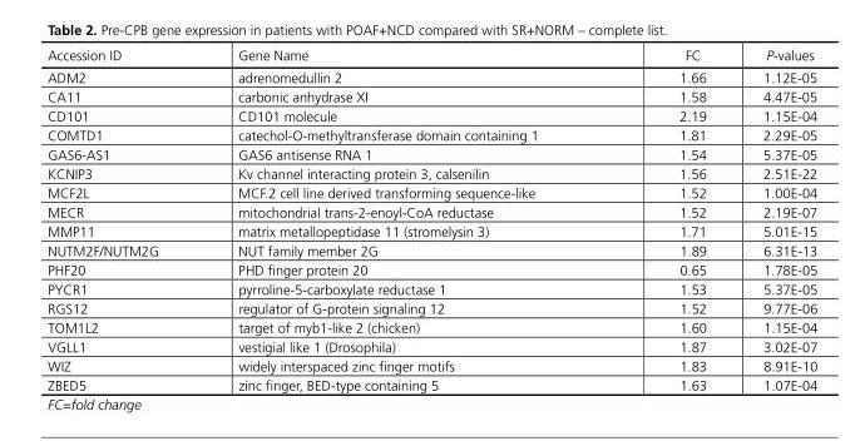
<table><thead><tr><td>Accession ID</td><td>Gene Name</td><td>FC</td><td>P-values</td></tr></thead><tbody><tr><td>ADM2</td><td>adrenomedullin 2</td><td>1.66</td><td>1.12E-05</td></tr><tr><td>CA11</td><td>carbonic anhydrase XI</td><td>1.58</td><td>4.47E-05</td></tr><tr><td>CD101</td><td>CD101 molecule</td><td>2.19</td><td>1.15E-04</td></tr><tr><td>COMTD1</td><td>catechol-O-methyltransferase domain containing 1</td><td>1.81</td><td>2.29E-05</td></tr><tr><td>GAS6-AS1</td><td>GAS6 antisense RNA 1</td><td>1.54</td><td>5.37E-05</td></tr><tr><td>KCNIP3</td><td>Kv channel interacting protein 3, calsenilin</td><td>1.56</td><td>2.51E-22</td></tr><tr><td>MCF2L</td><td>MCF.2 cell line derived transforming sequence-like</td><td>1.52</td><td>1.00E-04</td></tr><tr><td>MECR</td><td>mitochondrial trans-2-enoyl-CoA reductase</td><td>1.52</td><td>2.19E-07</td></tr><tr><td>MMP11</td><td>matrix metallopeptidase 11 (stromelysin 3)</td><td>1.71</td><td>5.01E-15</td></tr><tr><td>NUTM2F/NUTM2G</td><td>NUT family member 2G</td><td>1.89</td><td>6.31E-13</td></tr><tr><td>PHF20</td><td>PHD finger protein 20</td><td>0.65</td><td>1.78E-05</td></tr><tr><td>PYCR1</td><td>pyrroline-5-carboxylate reductase 1</td><td>1.53</td><td>5.37E-05</td></tr><tr><td>RGS12</td><td>regulator of G-protein signaling 12</td><td>1.52</td><td>9.77E-06</td></tr><tr><td>TOM1L2</td><td>target of myb1-like 2 (chicken)</td><td>1.60</td><td>1.15E-04</td></tr><tr><td>VGLL1</td><td>vestigial like 1 (Drosophila)</td><td>1.87</td><td>3.02E-07</td></tr><tr><td>WIZ</td><td>widely interspaced zinc finger motifs</td><td>1.83</td><td>8.91E-10</td></tr><tr><td>ZBED5</td><td>zinc finger, BED-type containing 5</td><td>1.63</td><td>1.07E-04</td></tr></tbody></table>